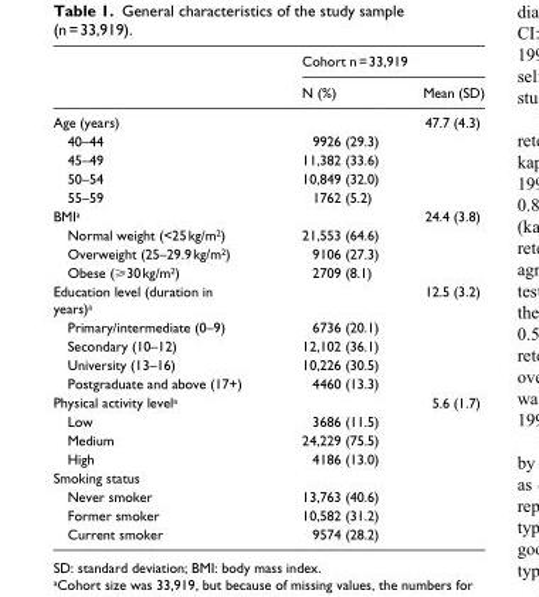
<table><thead><tr><td rowspan="2"></td><td colspan="2">Cohort n = 33,919</td></tr><tr><td>N (%)</td><td>Mean (SD)</td></tr></thead><tbody><tr><td>Age (years)</td><td></td><td>47.7 (4.3)</td></tr><tr><td>40–44</td><td>9926 (29.3)</td><td></td></tr><tr><td>45–49</td><td>11,382 (33.6)</td><td></td></tr><tr><td>50–54</td><td>10,849 (32.0)</td><td></td></tr><tr><td>55–59</td><td>1762 (5.2)</td><td></td></tr><tr><td>BMI<sup>a</sup></td><td></td><td>24.4 (3.8)</td></tr><tr><td>Normal weight (&lt;25 kg/m<sup>2</sup>)</td><td>21,553 (64.6)</td><td></td></tr><tr><td>Overweight (25–29.9 kg/m<sup>2</sup>)</td><td>9106 (27.3)</td><td></td></tr><tr><td>Obese (⩾30 kg/m<sup>2</sup>)</td><td>2709 (8.1)</td><td></td></tr><tr><td>Education level (duration in years)<sup>a</sup></td><td></td><td>12.5 (3.2)</td></tr><tr><td>Primary/intermediate (0–9)</td><td>6736 (20.1)</td><td></td></tr><tr><td>Secondary (10–12)</td><td>12,102 (36.1)</td><td></td></tr><tr><td>University (13–16)</td><td>10,226 (30.5)</td><td></td></tr><tr><td>Postgraduate and above (17+)</td><td>4460 (13.3)</td><td></td></tr><tr><td>Physical activity level<sup>a</sup></td><td></td><td>5.6 (1.7)</td></tr><tr><td>Low</td><td>3686 (11.5)</td><td></td></tr><tr><td>Medium</td><td>24,229 (75.5)</td><td></td></tr><tr><td>High</td><td>4186 (13.0)</td><td></td></tr><tr><td colspan="3">Smoking status</td></tr><tr><td>Never smoker</td><td>13,763 (40.6)</td><td></td></tr><tr><td>Former smoker</td><td>10,582 (31.2)</td><td></td></tr><tr><td>Current smoker</td><td>9574 (28.2)</td><td></td></tr></tbody></table>